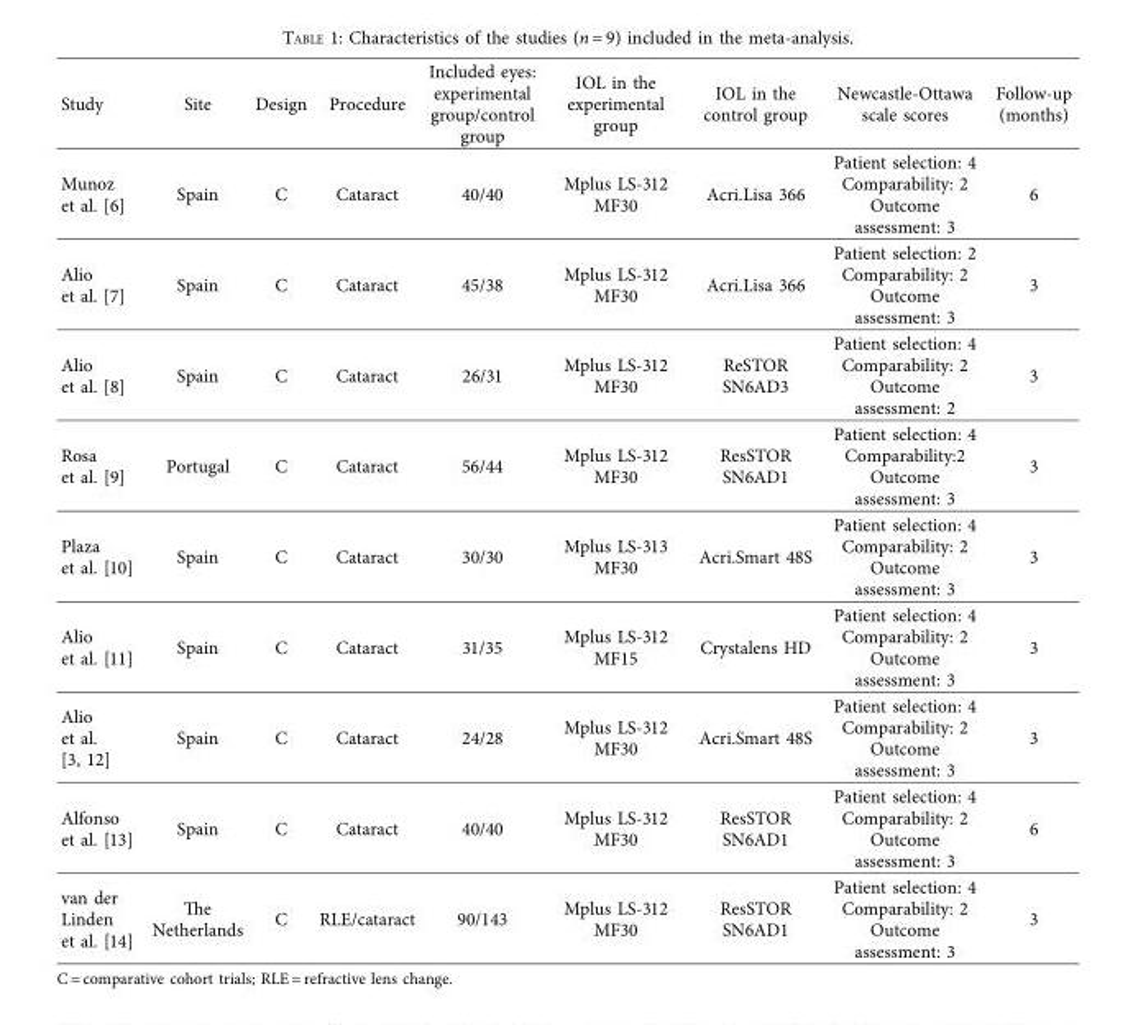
<table><thead><tr><td>Study</td><td>Site</td><td>Design</td><td>Procedure</td><td>Included eyes: experimental group/control group</td><td>IOL in the experimental group</td><td>IOL in the control group</td><td>Newcastle-Ottawa scale scores</td><td>Follow-up (months)</td></tr></thead><tbody><tr><td>Munoz et al. [6]</td><td>Spain</td><td>C</td><td>Cataract</td><td>40/40</td><td>Mplus LS-312 MF30</td><td>Acri.Lisa 366</td><td>Patient selection: 4 Comparability: 2 Outcome assessment: 3</td><td>6</td></tr><tr><td>Alio et al. [7]</td><td>Spain</td><td>C</td><td>Cataract</td><td>45/38</td><td>Mplus LS-312 MF30</td><td>Acri.Lisa 366</td><td>Patient selection: 2 Comparability: 2 Outcome assessment: 3</td><td>3</td></tr><tr><td>Alio et al. [8]</td><td>Spain</td><td>C</td><td>Cataract</td><td>26/31</td><td>Mplus LS-312 MF30</td><td>ReSTOR SN6AD3</td><td>Patient selection: 4 Comparability: 2 Outcome assessment: 2</td><td>3</td></tr><tr><td>Rosa et al. [9]</td><td>Portugal</td><td>C</td><td>Cataract</td><td>56/44</td><td>Mplus LS-312 MF30</td><td>ResSTOR SN6AD1</td><td>Patient selection: 4 Comparability:2 Outcome assessment: 3</td><td>3</td></tr><tr><td>Plaza et al. [10]</td><td>Spain</td><td>C</td><td>Cataract</td><td>30/30</td><td>Mplus LS-313 MF30</td><td>Acri.Smart 48S</td><td>Patient selection: 4 Comparability: 2 Outcome assessment: 3</td><td>3</td></tr><tr><td>Alio et al. [11]</td><td>Spain</td><td>C</td><td>Cataract</td><td>31/35</td><td>Mplus LS-312 MF15</td><td>Crystalens HD</td><td>Patient selection: 4 Comparability: 2 Outcome assessment: 3</td><td>3</td></tr><tr><td>Alio et al. [3, 12]</td><td>Spain</td><td>C</td><td>Cataract</td><td>24/28</td><td>Mplus LS-312 MF30</td><td>Acri.Smart 48S</td><td>Patient selection: 4 Comparability: 2 Outcome assessment: 3</td><td>3</td></tr><tr><td>Alfonso et al. [13]</td><td>Spain</td><td>C</td><td>Cataract</td><td>40/40</td><td>Mplus LS-312 MF30</td><td>ResSTOR SN6AD1</td><td>Patient selection: 4 Comparability: 2 Outcome assessment: 3</td><td>6</td></tr><tr><td>van der Linden et al. [14]</td><td>Te Netherlands</td><td>C</td><td>RLE/cataract</td><td>90/143</td><td>Mplus LS-312 MF30</td><td>ResSTOR SN6AD1</td><td>Patient selection: 4 Comparability: 2 Outcome assessment: 3</td><td>3</td></tr></tbody></table>